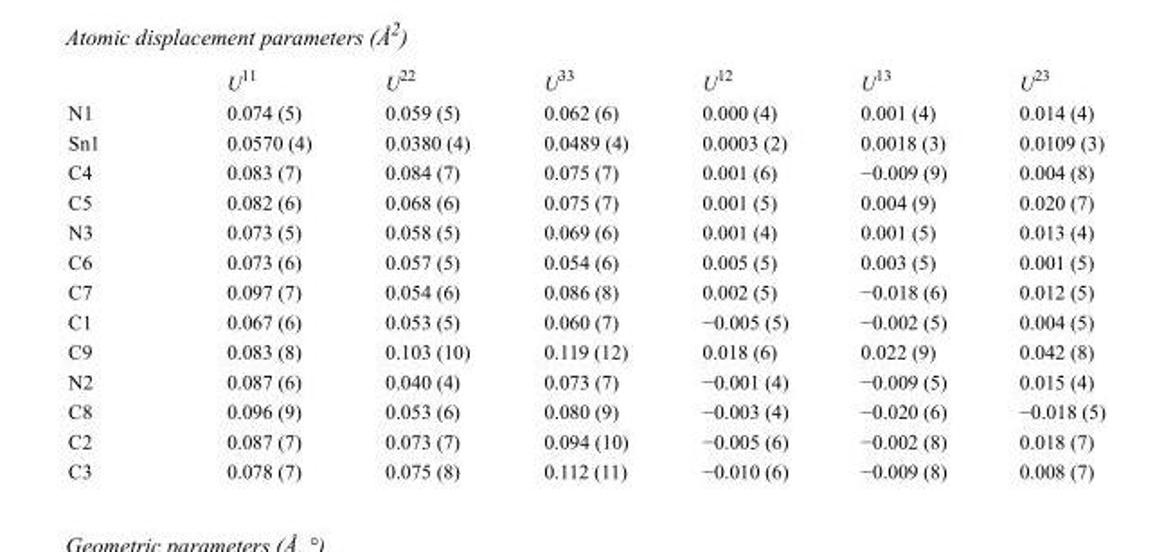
<table><thead><tr><td></td><td>U<sup>11</sup></td><td>U<sup>22</sup></td><td>U<sup>33</sup></td><td>U<sup>12</sup></td><td>U<sup>13</sup></td><td>U<sup>23</sup></td></tr></thead><tbody><tr><td>N1</td><td>0.074 (5)</td><td>0.059 (5)</td><td>0.062 (6)</td><td>0.000 (4)</td><td>0.001 (4)</td><td>0.014 (4)</td></tr><tr><td>Sn1</td><td>0.0570 (4)</td><td>0.0380 (4)</td><td>0.0489 (4)</td><td>0.0003 (2)</td><td>0.0018 (3)</td><td>0.0109 (3)</td></tr><tr><td>C4</td><td>0.083 (7)</td><td>0.084 (7)</td><td>0.075 (7)</td><td>0.001 (6)</td><td>−0.009 (9)</td><td>0.004 (8)</td></tr><tr><td>C5</td><td>0.082 (6)</td><td>0.068 (6)</td><td>0.075 (7)</td><td>0.001 (5)</td><td>0.004 (9)</td><td>0.020 (7)</td></tr><tr><td>N3</td><td>0.073 (5)</td><td>0.058 (5)</td><td>0.069 (6)</td><td>0.001 (4)</td><td>0.001 (5)</td><td>0.013 (4)</td></tr><tr><td>C6</td><td>0.073 (6)</td><td>0.057 (5)</td><td>0.054 (6)</td><td>0.005 (5)</td><td>0.003 (5)</td><td>0.001 (5)</td></tr><tr><td>C7</td><td>0.097 (7)</td><td>0.054 (6)</td><td>0.086 (8)</td><td>0.002 (5)</td><td>−0.018 (6)</td><td>0.012 (5)</td></tr><tr><td>C1</td><td>0.067 (6)</td><td>0.053 (5)</td><td>0.060 (7)</td><td>−0.005 (5)</td><td>−0.002 (5)</td><td>0.004 (5)</td></tr><tr><td>C9</td><td>0.083 (8)</td><td>0.103 (10)</td><td>0.119 (12)</td><td>0.018 (6)</td><td>0.022 (9)</td><td>0.042 (8)</td></tr><tr><td>N2</td><td>0.087 (6)</td><td>0.040 (4)</td><td>0.073 (7)</td><td>−0.001 (4)</td><td>−0.009 (5)</td><td>0.015 (4)</td></tr><tr><td>C8</td><td>0.096 (9)</td><td>0.053 (6)</td><td>0.080 (9)</td><td>−0.003 (4)</td><td>−0.020 (6)</td><td>−0.018 (5)</td></tr><tr><td>C2</td><td>0.087 (7)</td><td>0.073 (7)</td><td>0.094 (10)</td><td>−0.005 (6)</td><td>−0.002 (8)</td><td>0.018 (7)</td></tr><tr><td>C3</td><td>0.078 (7)</td><td>0.075 (8)</td><td>0.112 (11)</td><td>−0.010 (6)</td><td>−0.009 (8)</td><td>0.008 (7)</td></tr></tbody></table>